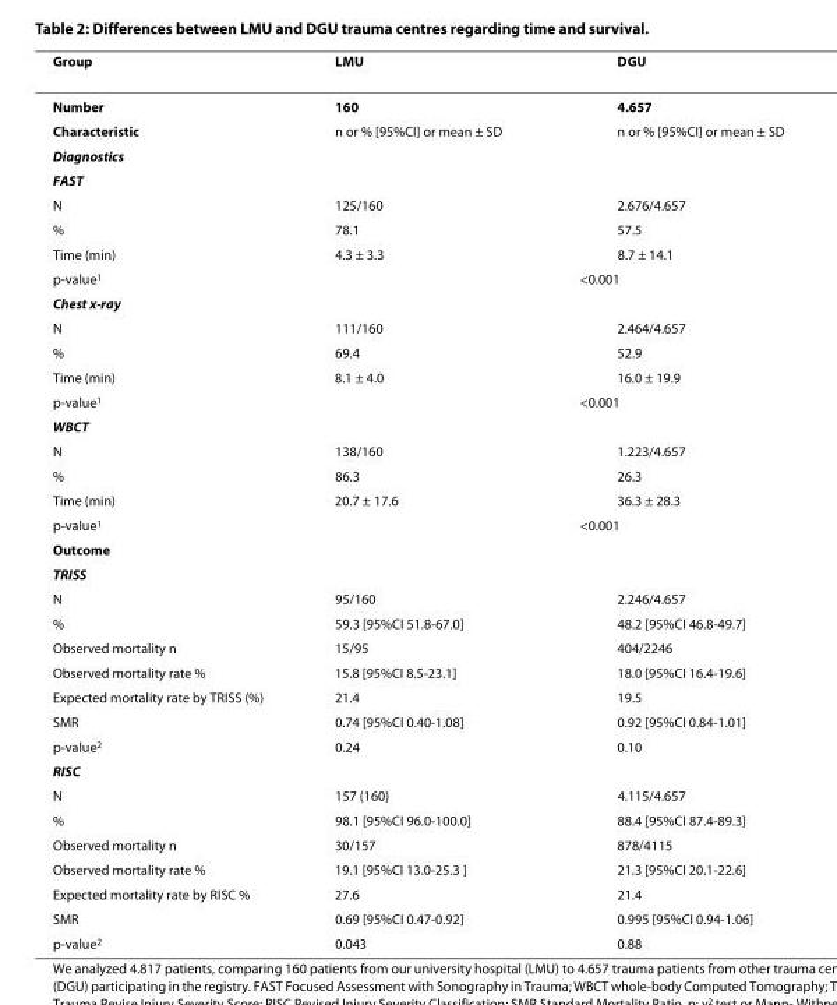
<table><thead><tr><td>Group</td><td>LMU</td><td>DGU</td></tr></thead><tbody><tr><td>Number</td><td>160</td><td>4.657</td></tr><tr><td>Characteristic</td><td>n or % [95%CI] or mean ± SD</td><td>n or % [95%CI] or mean ± SD</td></tr><tr><td colspan="3">Diagnostics</td></tr><tr><td colspan="3">FAST</td></tr><tr><td>N</td><td>125/160</td><td>2.676/4.657</td></tr><tr><td>%</td><td>78.1</td><td>57.5</td></tr><tr><td>Time (min)</td><td>4.3 ± 3.3</td><td>8.7 ± 14.1</td></tr><tr><td>p-value<sup>1</sup></td><td colspan="2">&lt;0.001</td></tr><tr><td colspan="3">Chest x-ray</td></tr><tr><td>N</td><td>111/160</td><td>2.464/4.657</td></tr><tr><td>%</td><td>69.4</td><td>52.9</td></tr><tr><td>Time (min)</td><td>8.1 ± 4.0</td><td>16.0 ± 19.9</td></tr><tr><td>p-value<sup>1</sup></td><td colspan="2">&lt;0.001</td></tr><tr><td colspan="3">WBCT</td></tr><tr><td>N</td><td>138/160</td><td>1.223/4.657</td></tr><tr><td>%</td><td>86.3</td><td>26.3</td></tr><tr><td>Time (min)</td><td>20.7 ± 17.6</td><td>36.3 ± 28.3</td></tr><tr><td>p-value<sup>1</sup></td><td colspan="2">&lt;0.001</td></tr><tr><td colspan="3">Outcome</td></tr><tr><td colspan="3">TRISS</td></tr><tr><td>N</td><td>95/160</td><td>2.246/4.657</td></tr><tr><td>%</td><td>59.3 [95%CI 51.8-67.0]</td><td>48.2 [95%CI 46.8-49.7]</td></tr><tr><td>Observed mortality n</td><td>15/95</td><td>404/2246</td></tr><tr><td>Observed mortality rate %</td><td>15.8 [95%CI 8.5-23.1]</td><td>18.0 [95%CI 16.4-19.6]</td></tr><tr><td>Expected mortality rate by TRISS (%)</td><td>21.4</td><td>19.5</td></tr><tr><td>SMR</td><td>0.74 [95%CI 0.40-1.08]</td><td>0.92 [95%CI 0.84-1.01]</td></tr><tr><td>p-value<sup>2</sup></td><td>0.24</td><td>0.10</td></tr><tr><td colspan="3">RISC</td></tr><tr><td>N</td><td>157 (160)</td><td>4.115/4.657</td></tr><tr><td>%</td><td>98.1 [95%CI 96.0-100.0]</td><td>88.4 [95%CI 87.4-89.3]</td></tr><tr><td>Observed mortality n</td><td>30/157</td><td>878/4115</td></tr><tr><td>Observed mortality rate %</td><td>19.1 [95%CI 13.0-25.3 ]</td><td>21.3 [95%CI 20.1-22.6]</td></tr><tr><td>Expected mortality rate by RISC %</td><td>27.6</td><td>21.4</td></tr><tr><td>SMR</td><td>0.69 [95%CI 0.47-0.92]</td><td>0.995 [95%CI 0.94-1.06]</td></tr><tr><td>p-value<sup>2</sup></td><td>0.043</td><td>0.88</td></tr></tbody></table>